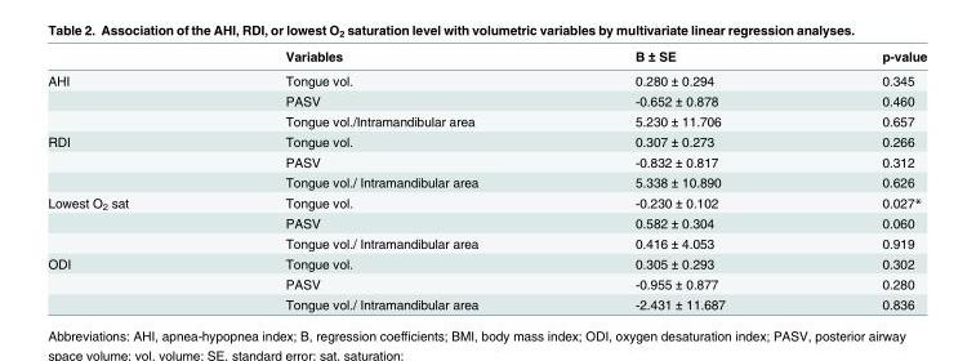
<table><thead><tr><td></td><td>Variables</td><td>B ± SE</td><td>p-value</td></tr></thead><tbody><tr><td rowspan="3">AHI</td><td>Tongue vol.</td><td>0.280 ± 0.294</td><td>0.345</td></tr><tr><td>PASV</td><td>-0.652 ± 0.878</td><td>0.460</td></tr><tr><td>Tongue vol./Intramandibular area</td><td>5.230 ± 11.706</td><td>0.657</td></tr><tr><td rowspan="3">RDI</td><td>Tongue vol.</td><td>0.307 ± 0.273</td><td>0.266</td></tr><tr><td>PASV</td><td>-0.832 ± 0.817</td><td>0.312</td></tr><tr><td>Tongue vol./ Intramandibular area</td><td>5.338 ± 10.890</td><td>0.626</td></tr><tr><td rowspan="3">Lowest O<sub>2</sub> sat</td><td>Tongue vol.</td><td>-0.230 ± 0.102</td><td>0.027*</td></tr><tr><td>PASV</td><td>0.582 ± 0.304</td><td>0.060</td></tr><tr><td>Tongue vol./ Intramandibular area</td><td>0.416 ± 4.053</td><td>0.919</td></tr><tr><td rowspan="3">ODI</td><td>Tongue vol.</td><td>0.305 ± 0.293</td><td>0.302</td></tr><tr><td>PASV</td><td>-0.955 ± 0.877</td><td>0.280</td></tr><tr><td>Tongue vol./ Intramandibular area</td><td>-2.431 ± 11.687</td><td>0.836</td></tr></tbody></table>